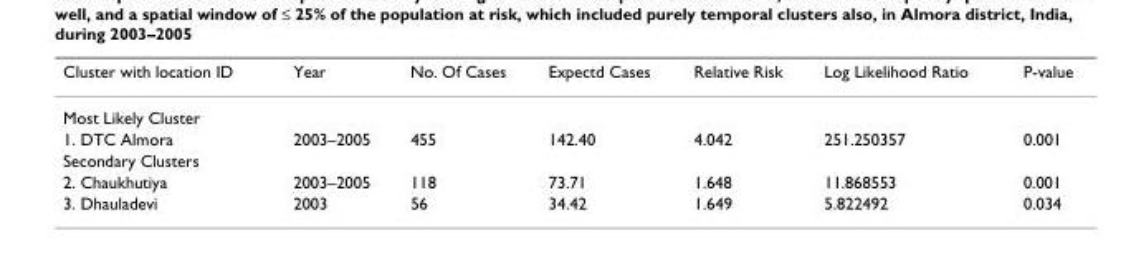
<table><thead><tr><td>Cluster with location ID</td><td>Year</td><td>No. Of Cases</td><td>Expectd Cases</td><td>Relative Risk</td><td>Log Likelihood Ratio</td><td>P-value</td></tr></thead><tbody><tr><td colspan="7">Most Likely Cluster</td></tr><tr><td>1. DTC Almora</td><td>2003–2005</td><td>455</td><td>142.40</td><td>4.042</td><td>251.250357</td><td>0.001</td></tr><tr><td colspan="7">Secondary Clusters</td></tr><tr><td>2. Chaukhutiya</td><td>2003–2005</td><td>118</td><td>73.71</td><td>1.648</td><td>11.868553</td><td>0.001</td></tr><tr><td>3. Dhauladevi</td><td>2003</td><td>56</td><td>34.42</td><td>1.649</td><td>5.822492</td><td>0.034</td></tr></tbody></table>